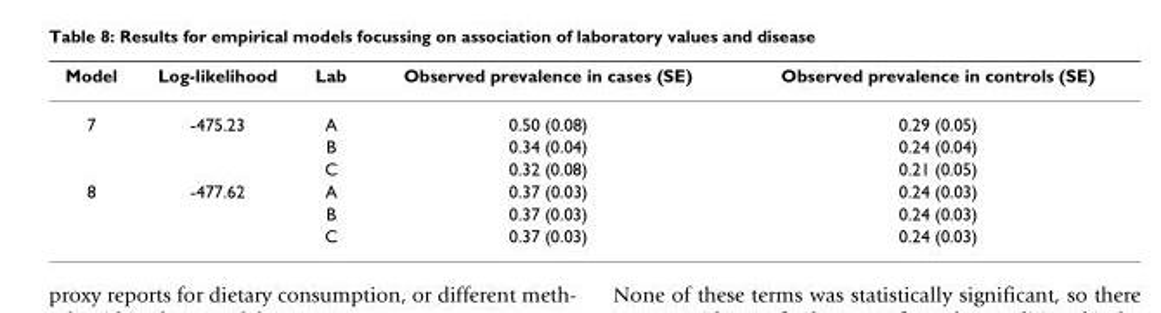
<table><thead><tr><td>Model</td><td>Log-likelihood</td><td>Lab</td><td>Observed prevalence in cases (SE)</td><td>Observed prevalence in controls (SE)</td></tr></thead><tbody><tr><td rowspan="3">7</td><td>-475.23</td><td>A</td><td>0.50 (0.08)</td><td>0.29 (0.05)</td></tr><tr><td></td><td>B</td><td>0.34 (0.04)</td><td>0.24 (0.04)</td></tr><tr><td></td><td>C</td><td>0.32 (0.08)</td><td>0.21 (0.05)</td></tr><tr><td rowspan="3">8</td><td>-477.62</td><td>A</td><td>0.37 (0.03)</td><td>0.24 (0.03)</td></tr><tr><td></td><td>B</td><td>0.37 (0.03)</td><td>0.24 (0.03)</td></tr><tr><td></td><td>C</td><td>0.37 (0.03)</td><td>0.24 (0.03)</td></tr></tbody></table>